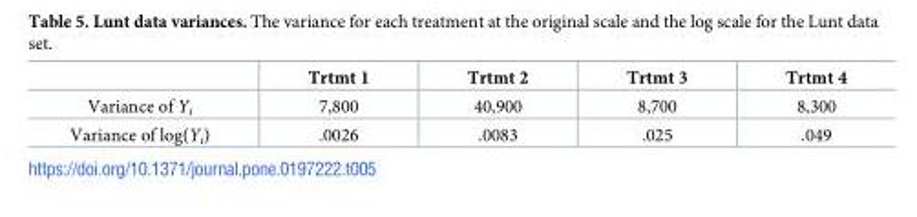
<table><thead><tr><td></td><td>Trtmt 1</td><td>Trtmt 2</td><td>Trtmt 3</td><td>Trtmt 4</td></tr></thead><tbody><tr><td>Variance of Y<sub>i</sub></td><td>7,800</td><td>40,900</td><td>8,700</td><td>8,300</td></tr><tr><td>Variance of log(Y<sub>i</sub>)</td><td>.0026</td><td>.0083</td><td>.025</td><td>.049</td></tr></tbody></table>